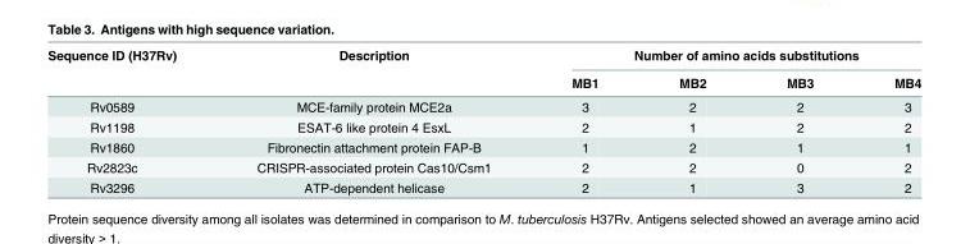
<table><thead><tr><td rowspan="2">Sequence ID (H37Rv)</td><td rowspan="2">Description</td><td colspan="4">Number of amino acids substitutions</td></tr><tr><td>MB1</td><td>MB2</td><td>MB3</td><td>MB4</td></tr></thead><tbody><tr><td>Rv0589</td><td>MCE-family protein MCE2a</td><td>3</td><td>2</td><td>2</td><td>3</td></tr><tr><td>Rv1198</td><td>ESAT-6 like protein 4 EsxL</td><td>2</td><td>1</td><td>2</td><td>2</td></tr><tr><td>Rv1860</td><td>Fibronectin attachment protein FAP-B</td><td>1</td><td>2</td><td>1</td><td>1</td></tr><tr><td>Rv2823c</td><td>CRISPR-associated protein Cas10/Csm1</td><td>2</td><td>2</td><td>0</td><td>2</td></tr><tr><td>Rv3296</td><td>ATP-dependent helicase</td><td>2</td><td>1</td><td>3</td><td>2</td></tr></tbody></table>